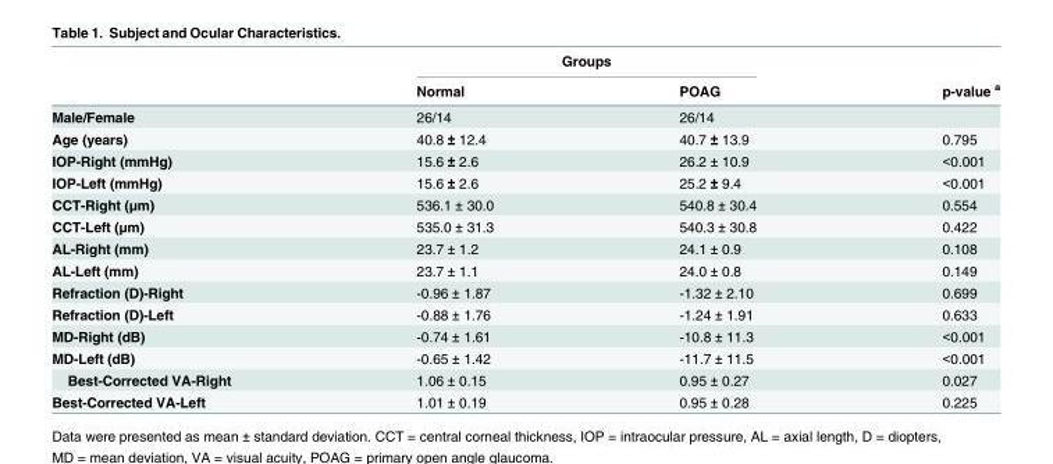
<table><thead><tr><td rowspan="2"></td><td colspan="2">Groups</td><td rowspan="2">p-value <sup>a</sup></td></tr><tr><td>Normal</td><td>POAG</td></tr></thead><tbody><tr><td>Male/Female</td><td>26/14</td><td>26/14</td><td></td></tr><tr><td>Age (years)</td><td>40.8 ± 12.4</td><td>40.7 ± 13.9</td><td>0.795</td></tr><tr><td>IOP-Right (mmHg)</td><td>15.6 ± 2.6</td><td>26.2 ± 10.9</td><td>&lt;0.001</td></tr><tr><td>IOP-Left (mmHg)</td><td>15.6 ± 2.6</td><td>25.2 ± 9.4</td><td>&lt;0.001</td></tr><tr><td>CCT-Right (μm)</td><td>536.1 ± 30.0</td><td>540.8 ± 30.4</td><td>0.554</td></tr><tr><td>CCT-Left (μm)</td><td>535.0 ± 31.3</td><td>540.3 ± 30.8</td><td>0.422</td></tr><tr><td>AL-Right (mm)</td><td>23.7 ± 1.2</td><td>24.1 ± 0.9</td><td>0.108</td></tr><tr><td>AL-Left (mm)</td><td>23.7 ± 1.1</td><td>24.0 ± 0.8</td><td>0.149</td></tr><tr><td>Refraction (D)-Right</td><td>-0.96 ± 1.87</td><td>-1.32 ± 2.10</td><td>0.699</td></tr><tr><td>Refraction (D)-Left</td><td>-0.88 ± 1.76</td><td>-1.24 ± 1.91</td><td>0.633</td></tr><tr><td>MD-Right (dB)</td><td>-0.74 ± 1.61</td><td>-10.8 ± 11.3</td><td>&lt;0.001</td></tr><tr><td>MD-Left (dB)</td><td>-0.65 ± 1.42</td><td>-11.7 ± 11.5</td><td>&lt;0.001</td></tr><tr><td>Best-Corrected VA-Right</td><td>1.06 ± 0.15</td><td>0.95 ± 0.27</td><td>0.027</td></tr><tr><td>Best-Corrected VA-Left</td><td>1.01 ± 0.19</td><td>0.95 ± 0.28</td><td>0.225</td></tr></tbody></table>